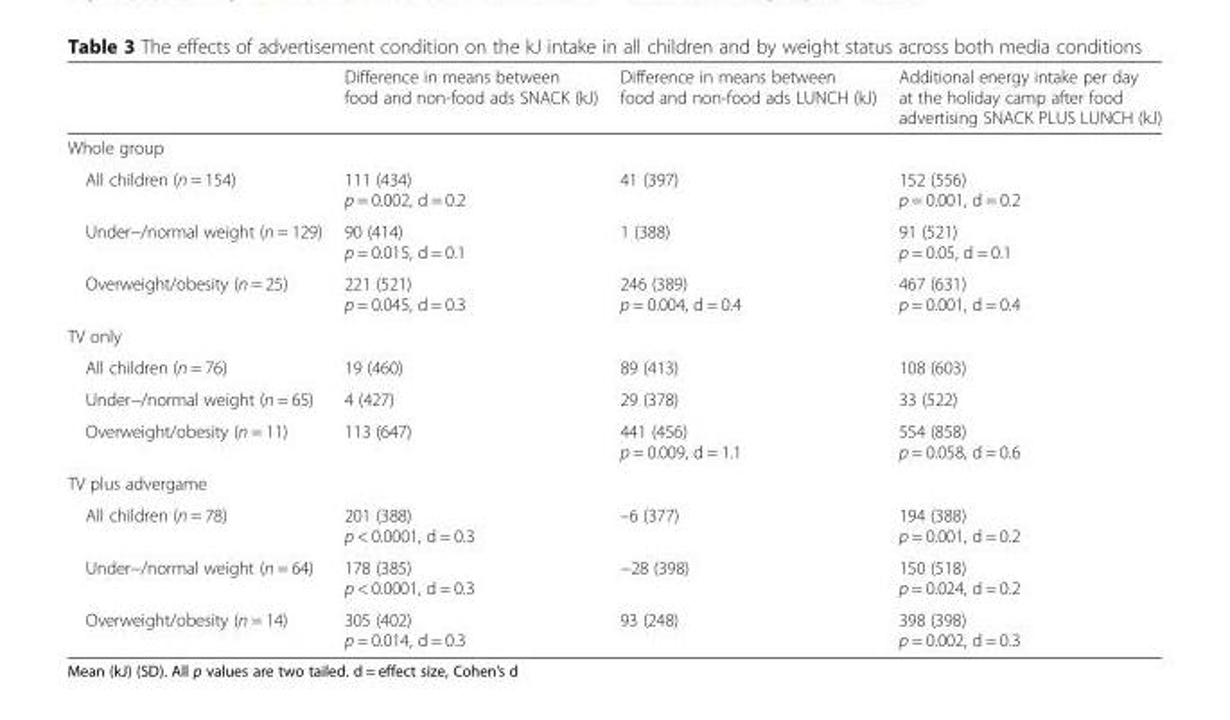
<table><thead><tr><td></td><td>Difference in means between food and non-food ads SNACK (kJ)</td><td>Difference in means between food and non-food ads LUNCH (kJ)</td><td>Additional energy intake per day at the holiday camp after food advertising SNACK PLUS LUNCH (kJ)</td></tr></thead><tbody><tr><td colspan="4">Whole group</td></tr><tr><td>All children (n = 154)</td><td>111 (434) p = 0.002, d = 0.2</td><td>41 (397)</td><td>152 (556) p = 0.001, d = 0.2</td></tr><tr><td>Under−/normal weight (n = 129)</td><td>90 (414) p = 0.015, d = 0.1</td><td>1 (388)</td><td>91 (521) p = 0.05, d = 0.1</td></tr><tr><td>Overweight/obesity (n = 25)</td><td>221 (521) p = 0.045, d = 0.3</td><td>246 (389) p = 0.004, d = 0.4</td><td>467 (631) p = 0.001, d = 0.4</td></tr><tr><td colspan="4">TV only</td></tr><tr><td>All children (n = 76)</td><td>19 (460)</td><td>89 (413)</td><td>108 (603)</td></tr><tr><td>Under−/normal weight (n = 65)</td><td>4 (427)</td><td>29 (378)</td><td>33 (522)</td></tr><tr><td>Overweight/obesity (n = 11)</td><td>113 (647)</td><td>441 (456) p = 0.009, d = 1.1</td><td>554 (858) p = 0.058, d = 0.6</td></tr><tr><td colspan="4">TV plus advergame</td></tr><tr><td>All children (n = 78)</td><td>201 (388) p &lt; 0.0001, d = 0.3</td><td>–6 (377)</td><td>194 (388) p = 0.001, d = 0.2</td></tr><tr><td>Under−/normal weight (n = 64)</td><td>178 (385) p &lt; 0.0001, d = 0.3</td><td>−28 (398)</td><td>150 (518) p = 0.024, d = 0.2</td></tr><tr><td>Overweight/obesity (n = 14)</td><td>305 (402) p = 0.014, d = 0.3</td><td>93 (248)</td><td>398 (398) p = 0.002, d = 0.3</td></tr></tbody></table>